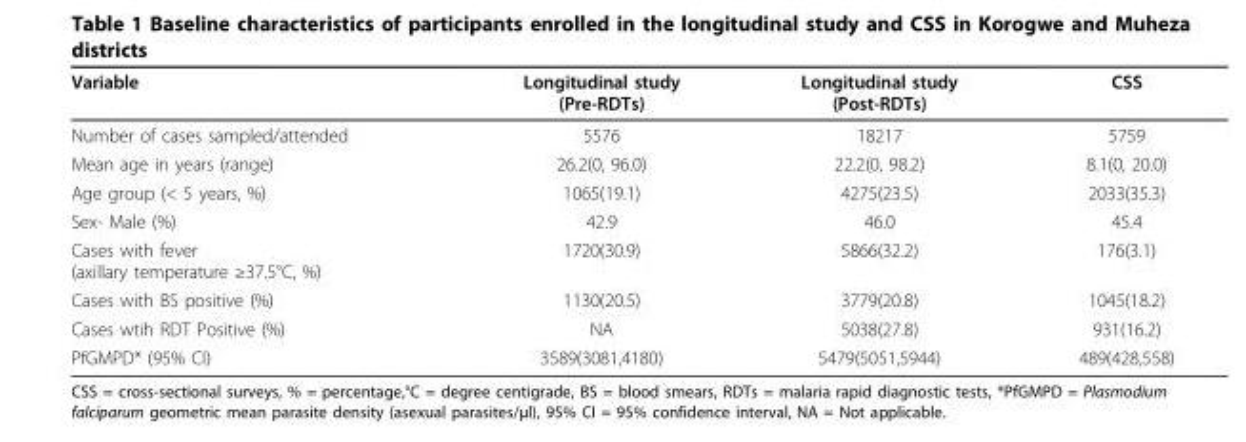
<table><thead><tr><td>Variable</td><td>Longitudinal study (Pre-RDTs)</td><td>Longitudinal study (Post-RDTs)</td><td>CSS</td></tr></thead><tbody><tr><td>Number of cases sampled/attended</td><td>5576</td><td>18217</td><td>5759</td></tr><tr><td>Mean age in years (range)</td><td>26.2(0, 96.0)</td><td>22.2(0, 98.2)</td><td>8.1(0, 20.0)</td></tr><tr><td>Age group (&lt; 5 years, %)</td><td>1065(19.1)</td><td>4275(23.5)</td><td>2033(35.3)</td></tr><tr><td>Sex- Male (%)</td><td>42.9</td><td>46.0</td><td>45.4</td></tr><tr><td>Cases with fever (axillary temperature ≥37.5°C, %)</td><td>1720(30.9)</td><td>5866(32.2)</td><td>176(3.1)</td></tr><tr><td>Cases with BS positive (%)</td><td>1130(20.5)</td><td>3779(20.8)</td><td>1045(18.2)</td></tr><tr><td>Cases wtih RDT Positive (%)</td><td>NA</td><td>5038(27.8)</td><td>931(16.2)</td></tr><tr><td>PfGMPD* (95% CI)</td><td>3589(3081,4180)</td><td>5479(5051,5944)</td><td>489(428,558)</td></tr></tbody></table>